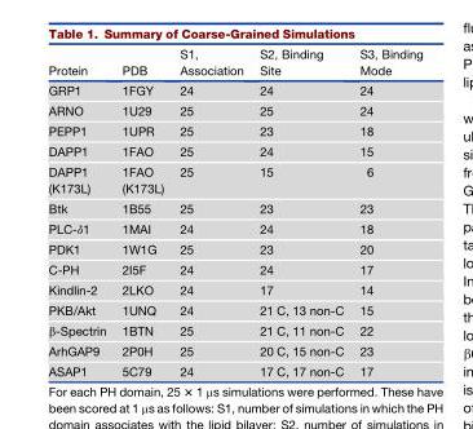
<table><thead><tr><td>Protein</td><td>PDB</td><td>S1, Association</td><td>S2, Binding Site</td><td>S3, Binding Mode</td></tr></thead><tbody><tr><td>GRP1</td><td>1FGY</td><td>24</td><td>24</td><td>24</td></tr><tr><td>ARNO</td><td>1U29</td><td>25</td><td>25</td><td>24</td></tr><tr><td>PEPP1</td><td>1UPR</td><td>25</td><td>23</td><td>18</td></tr><tr><td>DAPP1</td><td>1FAO</td><td>25</td><td>24</td><td>15</td></tr><tr><td>DAPP1 (K173L)</td><td>1FAO (K173L)</td><td>25</td><td>15</td><td>6</td></tr><tr><td>Btk</td><td>1B55</td><td>25</td><td>23</td><td>23</td></tr><tr><td>PLC-δ1</td><td>1MAI</td><td>24</td><td>24</td><td>18</td></tr><tr><td>PDK1</td><td>1W1G</td><td>25</td><td>23</td><td>20</td></tr><tr><td>C-PH</td><td>2I5F</td><td>24</td><td>24</td><td>17</td></tr><tr><td>Kindlin-2</td><td>2LKO</td><td>24</td><td>17</td><td>14</td></tr><tr><td>PKB/Akt</td><td>1UNQ</td><td>24</td><td>21 C, 13 non-C</td><td>15</td></tr><tr><td>β-Spectrin</td><td>1BTN</td><td>25</td><td>21 C, 11 non-C</td><td>22</td></tr><tr><td>ArhGAP9</td><td>2P0H</td><td>25</td><td>20 C, 15 non-C</td><td>23</td></tr><tr><td>ASAP1</td><td>5C79</td><td>24</td><td>17 C, 17 non-C</td><td>17</td></tr></tbody></table>